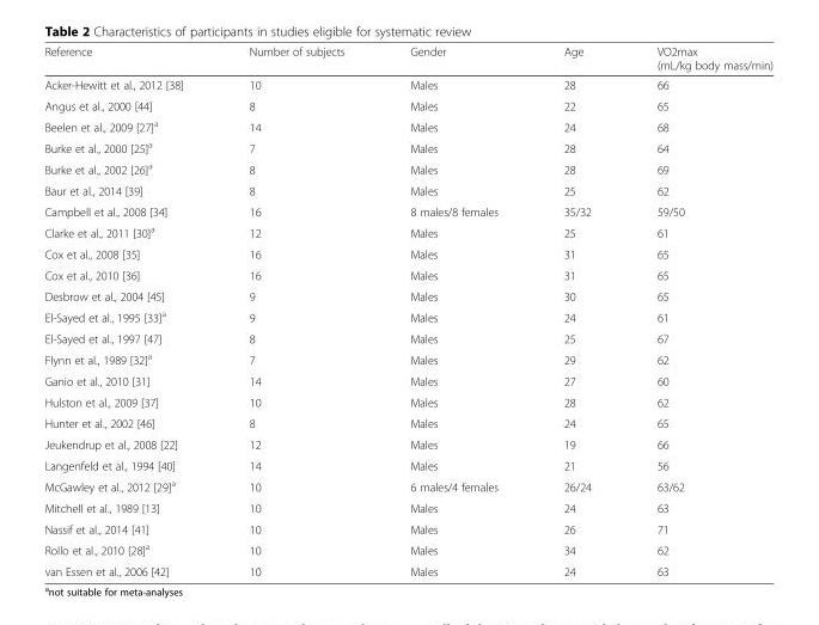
<table><thead><tr><td>Reference</td><td>Number of subjects</td><td>Gender</td><td>Age</td><td>VO2max (mL/kg body mass/min)</td></tr></thead><tbody><tr><td>Acker-Hewitt et al., 2012 [38]</td><td>10</td><td>Males</td><td>28</td><td>66</td></tr><tr><td>Angus et al., 2000 [44]</td><td>8</td><td>Males</td><td>22</td><td>65</td></tr><tr><td>Beelen et al., 2009 [27]<sup>a</sup></td><td>14</td><td>Males</td><td>24</td><td>68</td></tr><tr><td>Burke et al., 2000 [25]<sup>a</sup></td><td>7</td><td>Males</td><td>28</td><td>64</td></tr><tr><td>Burke et al., 2002 [26]<sup>a</sup></td><td>8</td><td>Males</td><td>28</td><td>69</td></tr><tr><td>Baur et al., 2014 [39]</td><td>8</td><td>Males</td><td>25</td><td>62</td></tr><tr><td>Campbell et al., 2008 [34]</td><td>16</td><td>8 males/8 females</td><td>35/32</td><td>59/50</td></tr><tr><td>Clarke et al., 2011 [30]<sup>a</sup></td><td>12</td><td>Males</td><td>25</td><td>61</td></tr><tr><td>Cox et al., 2008 [35]</td><td>16</td><td>Males</td><td>31</td><td>65</td></tr><tr><td>Cox et al., 2010 [36]</td><td>16</td><td>Males</td><td>31</td><td>65</td></tr><tr><td>Desbrow et al., 2004 [45]</td><td>9</td><td>Males</td><td>30</td><td>65</td></tr><tr><td>El-Sayed et al., 1995 [33]<sup>a</sup></td><td>9</td><td>Males</td><td>24</td><td>61</td></tr><tr><td>El-Sayed et al., 1997 [47]</td><td>8</td><td>Males</td><td>25</td><td>67</td></tr><tr><td>Flynn et al., 1989 [32]<sup>a</sup></td><td>7</td><td>Males</td><td>29</td><td>62</td></tr><tr><td>Ganio et al., 2010 [31]</td><td>14</td><td>Males</td><td>27</td><td>60</td></tr><tr><td>Hulston et al., 2009 [37]</td><td>10</td><td>Males</td><td>28</td><td>62</td></tr><tr><td>Hunter et al., 2002 [46]</td><td>8</td><td>Males</td><td>24</td><td>65</td></tr><tr><td>Jeukendrup et al., 2008 [22]</td><td>12</td><td>Males</td><td>19</td><td>66</td></tr><tr><td>Langenfeld et al., 1994 [40]</td><td>14</td><td>Males</td><td>21</td><td>56</td></tr><tr><td>McGawley et al., 2012 [29]<sup>a</sup></td><td>10</td><td>6 males/4 females</td><td>26/24</td><td>63/62</td></tr><tr><td>Mitchell et al., 1989 [13]</td><td>10</td><td>Males</td><td>24</td><td>63</td></tr><tr><td>Nassif et al., 2014 [41]</td><td>10</td><td>Males</td><td>26</td><td>71</td></tr><tr><td>Rollo et al., 2010 [28]<sup>a</sup></td><td>10</td><td>Males</td><td>34</td><td>62</td></tr><tr><td>van Essen et al., 2006 [42]</td><td>10</td><td>Males</td><td>24</td><td>63</td></tr></tbody></table>